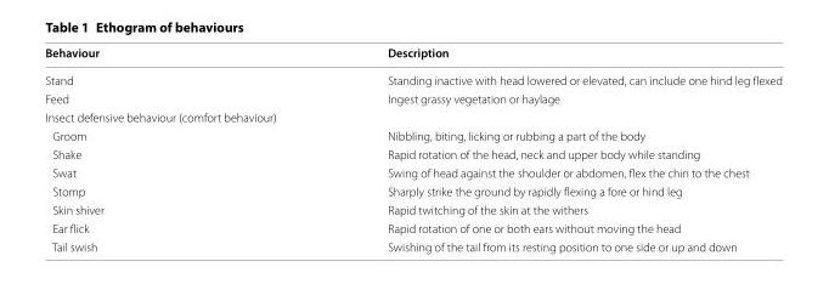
<table><thead><tr><td>Behaviour</td><td>Description</td></tr></thead><tbody><tr><td>Stand</td><td>Standing inactive with head lowered or elevated, can include one hind leg flexed</td></tr><tr><td>Feed</td><td>Ingest grassy vegetation or haylage</td></tr><tr><td colspan="2">Insect defensive behaviour (comfort behaviour)</td></tr><tr><td>Groom</td><td>Nibbling, biting, licking or rubbing a part of the body</td></tr><tr><td>Shake</td><td>Rapid rotation of the head, neck and upper body while standing</td></tr><tr><td>Swat</td><td>Swing of head against the shoulder or abdomen, flex the chin to the chest</td></tr><tr><td>Stomp</td><td>Sharply strike the ground by rapidly flexing a fore or hind leg</td></tr><tr><td>Skin shiver</td><td>Rapid twitching of the skin at the withers</td></tr><tr><td>Ear flick</td><td>Rapid rotation of one or both ears without moving the head</td></tr><tr><td>Tail swish</td><td>Swishing of the tail from its resting position to one side or up and down</td></tr></tbody></table>